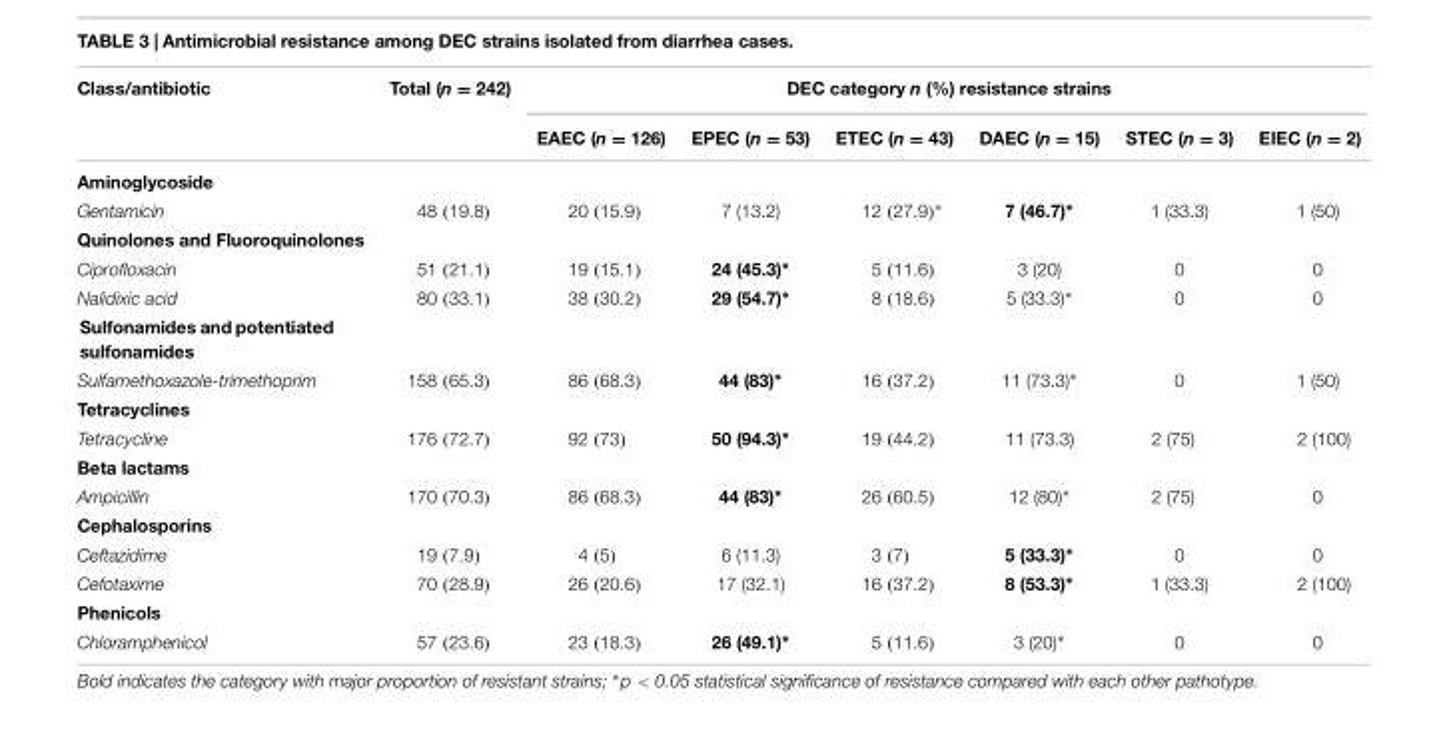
<table><thead><tr><td rowspan="2">Class/antibiotic</td><td rowspan="2">Total (n = 242)</td><td colspan="6">DEC category n (%) resistance strains</td></tr><tr><td>EAEC (n = 126)</td><td>EPEC (n = 53)</td><td>ETEC (n = 43)</td><td>DAEC (n = 15)</td><td>STEC (n = 3)</td><td>EIEC (n = 2)</td></tr></thead><tbody><tr><td colspan="8">Aminoglycoside</td></tr><tr><td>Gentamicin</td><td>48 (19.8)</td><td>20 (15.9)</td><td>7 (13.2)</td><td>12 (27.9)∗</td><td>7 (46.7)∗</td><td>1 (33.3)</td><td>1 (50)</td></tr><tr><td colspan="8">Quinolones and Fluoroquinolones</td></tr><tr><td>Ciprofloxacin</td><td>51 (21.1)</td><td>19 (15.1)</td><td>24 (45.3)∗</td><td>5 (11.6)</td><td>3 (20)</td><td>0</td><td>0</td></tr><tr><td>Nalidixic acid</td><td>80 (33.1)</td><td>38 (30.2)</td><td>29 (54.7)∗</td><td>8 (18.6)</td><td>5 (33.3)∗</td><td>0</td><td>0</td></tr><tr><td colspan="8">Sulfonamides and potentiated sulfonamides</td></tr><tr><td>Sulfamethoxazole-trimethoprim</td><td>158 (65.3)</td><td>86 (68.3)</td><td>44 (83)∗</td><td>16 (37.2)</td><td>11 (73.3)∗</td><td>0</td><td>1 (50)</td></tr><tr><td colspan="8">Tetracyclines</td></tr><tr><td>Tetracycline</td><td>176 (72.7)</td><td>92 (73)</td><td>50 (94.3)∗</td><td>19 (44.2)</td><td>11 (73.3)</td><td>2 (75)</td><td>2 (100)</td></tr><tr><td colspan="8">Beta lactams</td></tr><tr><td>Ampicillin</td><td>170 (70.3)</td><td>86 (68.3)</td><td>44 (83)∗</td><td>26 (60.5)</td><td>12 (80)∗</td><td>2 (75)</td><td>0</td></tr><tr><td colspan="8">Cephalosporins</td></tr><tr><td>Ceftazidime</td><td>19 (7.9)</td><td>4 (5)</td><td>6 (11.3)</td><td>3 (7)</td><td>5 (33.3)∗</td><td>0</td><td>0</td></tr><tr><td>Cefotaxime</td><td>70 (28.9)</td><td>26 (20.6)</td><td>17 (32.1)</td><td>16 (37.2)</td><td>8 (53.3)∗</td><td>1 (33.3)</td><td>2 (100)</td></tr><tr><td colspan="8">Phenicols</td></tr><tr><td>Chloramphenicol</td><td>57 (23.6)</td><td>23 (18.3)</td><td>26 (49.1)∗</td><td>5 (11.6)</td><td>3 (20)∗</td><td>0</td><td>0</td></tr></tbody></table>